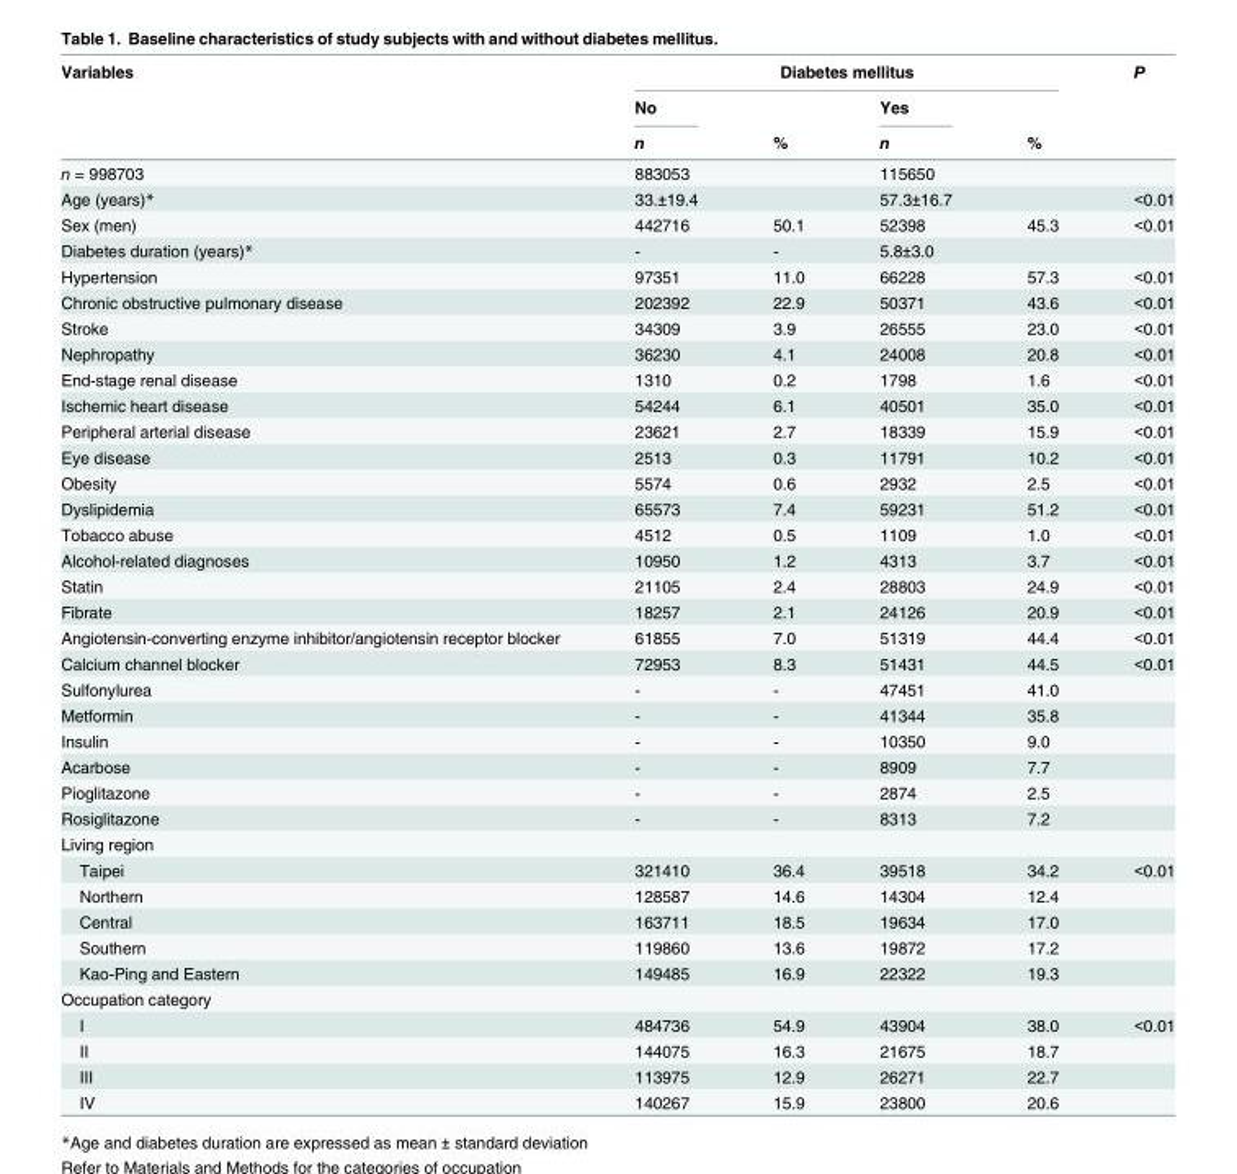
<table><thead><tr><td rowspan="3">Variables</td><td colspan="4">Diabetes mellitus</td><td rowspan="3">P</td></tr><tr><td rowspan="2">No n</td><td rowspan="2">%</td><td rowspan="2">Yes n</td><td rowspan="2">%</td></tr><tr></tr></thead><tbody><tr><td>n = 998703</td><td>883053</td><td></td><td>115650</td><td></td><td></td></tr><tr><td>Age (years)*</td><td>33.±19.4</td><td></td><td>57.3±16.7</td><td></td><td>&lt;0.01</td></tr><tr><td>Sex (men)</td><td>442716</td><td>50.1</td><td>52398</td><td>45.3</td><td>&lt;0.01</td></tr><tr><td>Diabetes duration (years)*</td><td>-</td><td>-</td><td>5.8±3.0</td><td></td><td></td></tr><tr><td>Hypertension</td><td>97351</td><td>11.0</td><td>66228</td><td>57.3</td><td>&lt;0.01</td></tr><tr><td>Chronic obstructive pulmonary disease</td><td>202392</td><td>22.9</td><td>50371</td><td>43.6</td><td>&lt;0.01</td></tr><tr><td>Stroke</td><td>34309</td><td>3.9</td><td>26555</td><td>23.0</td><td>&lt;0.01</td></tr><tr><td>Nephropathy</td><td>36230</td><td>4.1</td><td>24008</td><td>20.8</td><td>&lt;0.01</td></tr><tr><td>End-stage renal disease</td><td>1310</td><td>0.2</td><td>1798</td><td>1.6</td><td>&lt;0.01</td></tr><tr><td>Ischemic heart disease</td><td>54244</td><td>6.1</td><td>40501</td><td>35.0</td><td>&lt;0.01</td></tr><tr><td>Peripheral arterial disease</td><td>23621</td><td>2.7</td><td>18339</td><td>15.9</td><td>&lt;0.01</td></tr><tr><td>Eye disease</td><td>2513</td><td>0.3</td><td>11791</td><td>10.2</td><td>&lt;0.01</td></tr><tr><td>Obesity</td><td>5574</td><td>0.6</td><td>2932</td><td>2.5</td><td>&lt;0.01</td></tr><tr><td>Dyslipidemia</td><td>65573</td><td>7.4</td><td>59231</td><td>51.2</td><td>&lt;0.01</td></tr><tr><td>Tobacco abuse</td><td>4512</td><td>0.5</td><td>1109</td><td>1.0</td><td>&lt;0.01</td></tr><tr><td>Alcohol-related diagnoses</td><td>10950</td><td>1.2</td><td>4313</td><td>3.7</td><td>&lt;0.01</td></tr><tr><td>Statin</td><td>21105</td><td>2.4</td><td>28803</td><td>24.9</td><td>&lt;0.01</td></tr><tr><td>Fibrate</td><td>18257</td><td>2.1</td><td>24126</td><td>20.9</td><td>&lt;0.01</td></tr><tr><td>Angiotensin-converting enzyme inhibitor/angiotensin receptor blocker</td><td>61855</td><td>7.0</td><td>51319</td><td>44.4</td><td>&lt;0.01</td></tr><tr><td>Calcium channel blocker</td><td>72953</td><td>8.3</td><td>51431</td><td>44.5</td><td>&lt;0.01</td></tr><tr><td>Sulfonylurea</td><td>-</td><td>-</td><td>47451</td><td>41.0</td><td></td></tr><tr><td>Metformin</td><td>-</td><td>-</td><td>41344</td><td>35.8</td><td></td></tr><tr><td>Insulin</td><td>-</td><td>-</td><td>10350</td><td>9.0</td><td></td></tr><tr><td>Acarbose</td><td>-</td><td>-</td><td>8909</td><td>7.7</td><td></td></tr><tr><td>Pioglitazone</td><td>-</td><td>-</td><td>2874</td><td>2.5</td><td></td></tr><tr><td>Rosiglitazone</td><td>-</td><td>-</td><td>8313</td><td>7.2</td><td></td></tr><tr><td colspan="6">Living region</td></tr><tr><td>Taipei</td><td>321410</td><td>36.4</td><td>39518</td><td>34.2</td><td>&lt;0.01</td></tr><tr><td>Northern</td><td>128587</td><td>14.6</td><td>14304</td><td>12.4</td><td></td></tr><tr><td>Central</td><td>163711</td><td>18.5</td><td>19634</td><td>17.0</td><td></td></tr><tr><td>Southern</td><td>119860</td><td>13.6</td><td>19872</td><td>17.2</td><td></td></tr><tr><td>Kao-Ping and Eastern</td><td>149485</td><td>16.9</td><td>22322</td><td>19.3</td><td></td></tr><tr><td colspan="6">Occupation category</td></tr><tr><td>I</td><td>484736</td><td>54.9</td><td>43904</td><td>38.0</td><td>&lt;0.01</td></tr><tr><td>II</td><td>144075</td><td>16.3</td><td>21675</td><td>18.7</td><td></td></tr><tr><td>III</td><td>113975</td><td>12.9</td><td>26271</td><td>22.7</td><td></td></tr><tr><td>IV</td><td>140267</td><td>15.9</td><td>23800</td><td>20.6</td><td></td></tr></tbody></table>